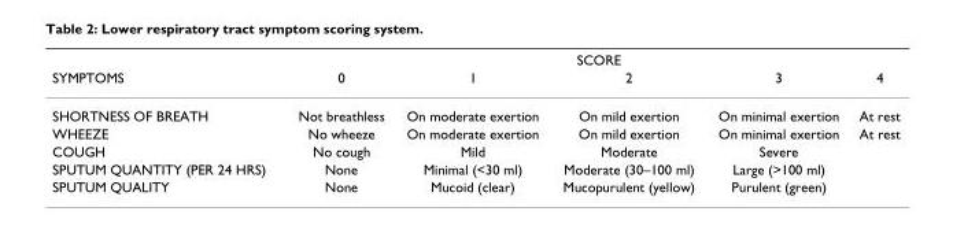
<table><thead><tr><td rowspan="2">SYMPTOMS</td><td colspan="5">SCORE</td></tr><tr><td>0</td><td>1</td><td>2</td><td>3</td><td>4</td></tr></thead><tbody><tr><td>SHORTNESS OF BREATH</td><td>Not breathless</td><td>On moderate exertion</td><td>On mild exertion</td><td>On minimal exertion</td><td>At rest</td></tr><tr><td>WHEEZE</td><td>No wheeze</td><td>On moderate exertion</td><td>On mild exertion</td><td>On minimal exertion</td><td>At rest</td></tr><tr><td>COUGH</td><td>No cough</td><td>Mild</td><td>Moderate</td><td>Severe</td><td></td></tr><tr><td>SPUTUM QUANTITY (PER 24 HRS)</td><td>None</td><td>Minimal (&lt;30 ml)</td><td>Moderate (30–100 ml)</td><td>Large (&gt;100 ml)</td><td></td></tr><tr><td>SPUTUM QUALITY</td><td>None</td><td>Mucoid (clear)</td><td>Mucopurulent (yellow)</td><td>Purulent (green)</td><td></td></tr></tbody></table>